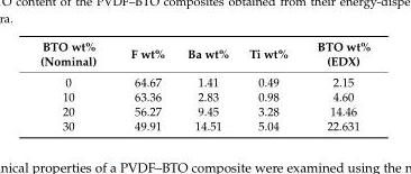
<table><thead><tr><td>BTO wt% (Nominal)</td><td>F wt%</td><td>Ba wt%</td><td>Ti wt%</td><td>BTO wt% (EDX)</td></tr></thead><tbody><tr><td>0</td><td>64.67</td><td>1.41</td><td>0.49</td><td>2.15</td></tr><tr><td>10</td><td>63.36</td><td>2.83</td><td>0.98</td><td>4.60</td></tr><tr><td>20</td><td>56.27</td><td>9.45</td><td>3.28</td><td>14.46</td></tr><tr><td>30</td><td>49.91</td><td>14.51</td><td>5.04</td><td>22.631</td></tr></tbody></table>